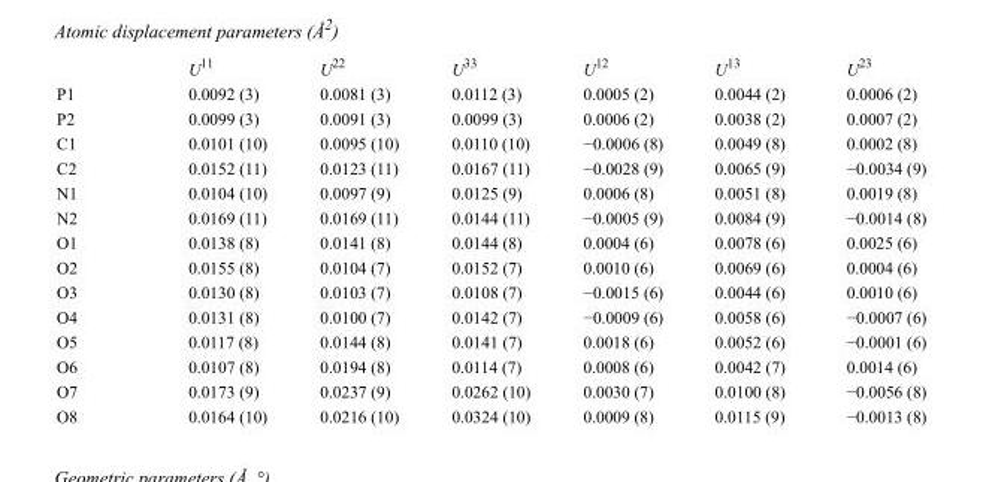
<table><thead><tr><td></td><td>U<sup>11</sup></td><td>U<sup>22</sup></td><td>U<sup>33</sup></td><td>U<sup>12</sup></td><td>U<sup>13</sup></td><td>U<sup>23</sup></td></tr></thead><tbody><tr><td>P1</td><td>0.0092 (3)</td><td>0.0081 (3)</td><td>0.0112 (3)</td><td>0.0005 (2)</td><td>0.0044 (2)</td><td>0.0006 (2)</td></tr><tr><td>P2</td><td>0.0099 (3)</td><td>0.0091 (3)</td><td>0.0099 (3)</td><td>0.0006 (2)</td><td>0.0038 (2)</td><td>0.0007 (2)</td></tr><tr><td>C1</td><td>0.0101 (10)</td><td>0.0095 (10)</td><td>0.0110 (10)</td><td>−0.0006 (8)</td><td>0.0049 (8)</td><td>0.0002 (8)</td></tr><tr><td>C2</td><td>0.0152 (11)</td><td>0.0123 (11)</td><td>0.0167 (11)</td><td>−0.0028 (9)</td><td>0.0065 (9)</td><td>−0.0034 (9)</td></tr><tr><td>N1</td><td>0.0104 (10)</td><td>0.0097 (9)</td><td>0.0125 (9)</td><td>0.0006 (8)</td><td>0.0051 (8)</td><td>0.0019 (8)</td></tr><tr><td>N2</td><td>0.0169 (11)</td><td>0.0169 (11)</td><td>0.0144 (11)</td><td>−0.0005 (9)</td><td>0.0084 (9)</td><td>−0.0014 (8)</td></tr><tr><td>O1</td><td>0.0138 (8)</td><td>0.0141 (8)</td><td>0.0144 (8)</td><td>0.0004 (6)</td><td>0.0078 (6)</td><td>0.0025 (6)</td></tr><tr><td>O2</td><td>0.0155 (8)</td><td>0.0104 (7)</td><td>0.0152 (7)</td><td>0.0010 (6)</td><td>0.0069 (6)</td><td>0.0004 (6)</td></tr><tr><td>O3</td><td>0.0130 (8)</td><td>0.0103 (7)</td><td>0.0108 (7)</td><td>−0.0015 (6)</td><td>0.0044 (6)</td><td>0.0010 (6)</td></tr><tr><td>O4</td><td>0.0131 (8)</td><td>0.0100 (7)</td><td>0.0142 (7)</td><td>−0.0009 (6)</td><td>0.0058 (6)</td><td>−0.0007 (6)</td></tr><tr><td>O5</td><td>0.0117 (8)</td><td>0.0144 (8)</td><td>0.0141 (7)</td><td>0.0018 (6)</td><td>0.0052 (6)</td><td>−0.0001 (6)</td></tr><tr><td>O6</td><td>0.0107 (8)</td><td>0.0194 (8)</td><td>0.0114 (7)</td><td>0.0008 (6)</td><td>0.0042 (7)</td><td>0.0014 (6)</td></tr><tr><td>O7</td><td>0.0173 (9)</td><td>0.0237 (9)</td><td>0.0262 (10)</td><td>0.0030 (7)</td><td>0.0100 (8)</td><td>−0.0056 (8)</td></tr><tr><td>O8</td><td>0.0164 (10)</td><td>0.0216 (10)</td><td>0.0324 (10)</td><td>0.0009 (8)</td><td>0.0115 (9)</td><td>−0.0013 (8)</td></tr></tbody></table>